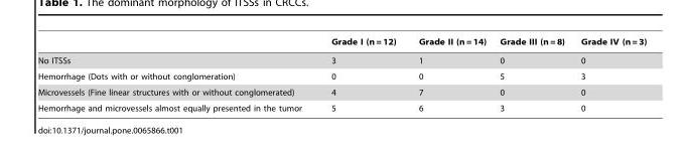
<table><thead><tr><td></td><td>Grade I (n = 12)</td><td>Grade II (n = 14)</td><td>Grade III (n = 8)</td><td>Grade IV (n = 3)</td></tr></thead><tbody><tr><td>No ITSSs</td><td>3</td><td>1</td><td>0</td><td>0</td></tr><tr><td>Hemorrhage (Dots with or without conglomeration)</td><td>0</td><td>0</td><td>5</td><td>3</td></tr><tr><td>Microvessels (Fine linear structures with or without conglomerated)</td><td>4</td><td>7</td><td>0</td><td>0</td></tr><tr><td>Hemorrhage and microvessels almost equally presented in the tumor</td><td>5</td><td>6</td><td>3</td><td>0</td></tr></tbody></table>